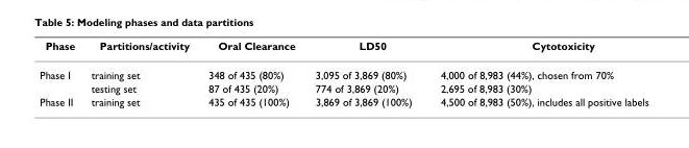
<table><thead><tr><td>Phase</td><td>Partitions/activity</td><td>Oral Clearance</td><td>LD50</td><td>Cytotoxicity</td></tr></thead><tbody><tr><td rowspan="2">Phase I</td><td>training set</td><td>348 of 435 (80%)</td><td>3,095 of 3,869 (80%)</td><td>4,000 of 8,983 (44%), chosen from 70%</td></tr><tr><td>testing set</td><td>87 of 435 (20%)</td><td>774 of 3,869 (20%)</td><td>2,695 of 8,983 (30%)</td></tr><tr><td>Phase II</td><td>training set</td><td>435 of 435 (100%)</td><td>3,869 of 3,869 (100%)</td><td>4,500 of 8,983 (50%), includes all positive labels</td></tr></tbody></table>